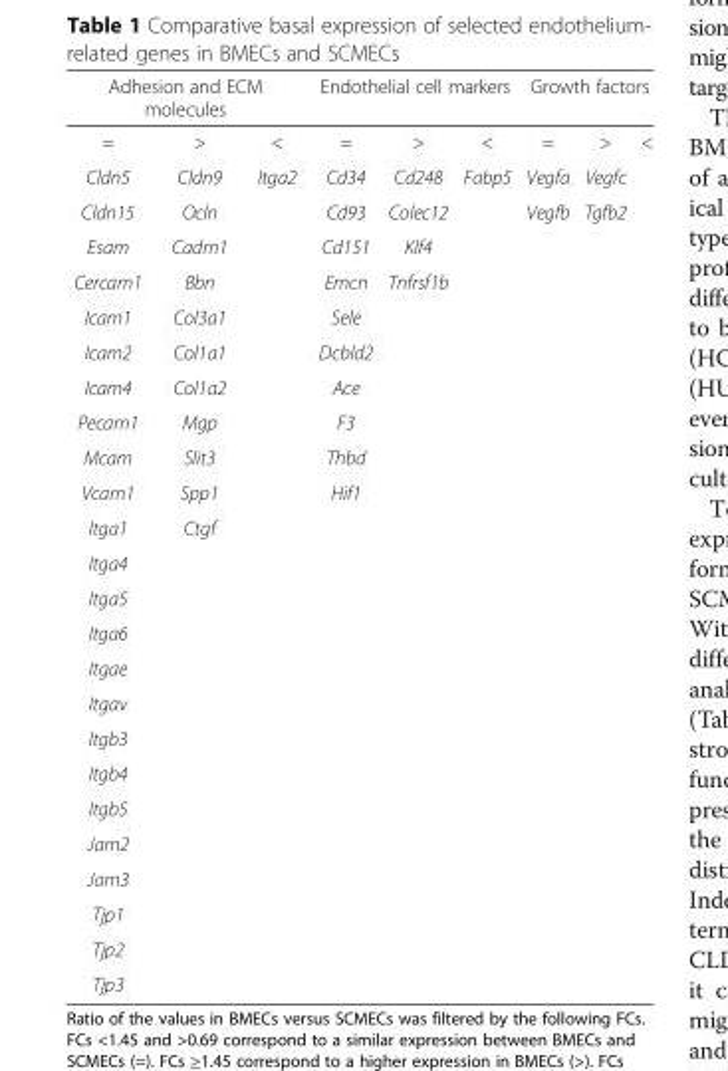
<table><thead><tr><td colspan="3">Adhesion and ECM molecules</td><td colspan="3">Endothelial cell markers</td><td colspan="3">Growth factors</td></tr><tr><td>=</td><td>&gt;</td><td>&lt;</td><td>=</td><td>&gt;</td><td>&lt;</td><td>=</td><td>&gt;</td><td>&lt;</td></tr></thead><tbody><tr><td>Cldn5</td><td>Cldn9</td><td>Itga2</td><td>Cd34</td><td>Cd248</td><td>Fabp5</td><td>Vegfa</td><td>Vegfc</td><td></td></tr><tr><td>Cldn15</td><td>Ocln</td><td></td><td>Cd93</td><td>Colec12</td><td></td><td>Vegfb</td><td>Tgfb2</td><td></td></tr><tr><td>Esam</td><td>Cadm1</td><td></td><td>Cd151</td><td>Klf4</td><td></td><td></td><td></td><td></td></tr><tr><td>Cercam1</td><td>Bbn</td><td></td><td>Emcn</td><td>Tnfrsf1b</td><td></td><td></td><td></td><td></td></tr><tr><td>Icam1</td><td>Col3a1</td><td></td><td>Sele</td><td></td><td></td><td></td><td></td><td></td></tr><tr><td>Icam2</td><td>Col1a1</td><td></td><td>Dcbld2</td><td></td><td></td><td></td><td></td><td></td></tr><tr><td>Icam4</td><td>Col1a2</td><td></td><td>Ace</td><td></td><td></td><td></td><td></td><td></td></tr><tr><td>Pecam1</td><td>Mgp</td><td></td><td>F3</td><td></td><td></td><td></td><td></td><td></td></tr><tr><td>Mcam</td><td>Slit3</td><td></td><td>Thbd</td><td></td><td></td><td></td><td></td><td></td></tr><tr><td>Vcam1</td><td>Spp1</td><td></td><td>Hif1</td><td></td><td></td><td></td><td></td><td></td></tr><tr><td>Itga1</td><td>Ctgf</td><td></td><td></td><td></td><td></td><td></td><td></td><td></td></tr><tr><td colspan="9">Itga4</td></tr><tr><td colspan="9">Itga5</td></tr><tr><td colspan="9">Itga6</td></tr><tr><td colspan="9">Itgae</td></tr><tr><td colspan="9">Itgav</td></tr><tr><td colspan="9">Itgb3</td></tr><tr><td colspan="9">Itgb4</td></tr><tr><td colspan="9">Itgb5</td></tr><tr><td colspan="9">Jam2</td></tr><tr><td colspan="9">Jam3</td></tr><tr><td colspan="9">Tjp1</td></tr><tr><td colspan="9">Tjp2</td></tr><tr><td>Tjp3</td><td></td><td></td><td></td><td></td><td></td><td></td><td></td><td></td></tr></tbody></table>